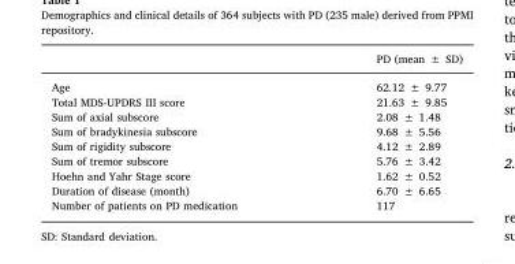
<table><thead><tr><td></td><td>PD (mean ± SD)</td></tr></thead><tbody><tr><td>Age</td><td>62.12 ± 9.77</td></tr><tr><td>Total MDS-UPDRS III score</td><td>21.63 ± 9.85</td></tr><tr><td>Sum of axial subscore</td><td>2.08 ± 1.48</td></tr><tr><td>Sum of bradykinesia subscore</td><td>9.68 ± 5.56</td></tr><tr><td>Sum of rigidity subscore</td><td>4.12 ± 2.89</td></tr><tr><td>Sum of tremor subscore</td><td>5.76 ± 3.42</td></tr><tr><td>Hoehn and Yahr Stage score</td><td>1.62 ± 0.52</td></tr><tr><td>Duration of disease (month)</td><td>6.70 ± 6.65</td></tr><tr><td>Number of patients on PD medication</td><td>117</td></tr></tbody></table>